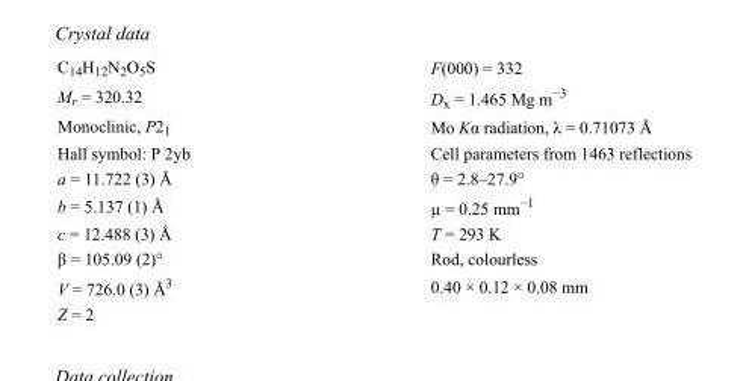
<table><tbody><tr><td>C<sub>14</sub>H<sub>12</sub>N<sub>2</sub>O<sub>5</sub>S</td><td>F(000) = 332</td></tr><tr><td>M<sub>r</sub> = 320.32</td><td>D<sub>x</sub> = 1.465 Mg m<sup>−3</sup></td></tr><tr><td>Monoclinic, P2<sub>1</sub></td><td>Mo Kα radiation, λ = 0.71073 Å</td></tr><tr><td>Hall symbol: P 2yb</td><td>Cell parameters from 1463 reflections</td></tr><tr><td>a = 11.722 (3) Å</td><td>θ = 2.8–27.9°</td></tr><tr><td>b = 5.137 (1) Å</td><td>µ = 0.25 mm<sup>−1</sup></td></tr><tr><td>c = 12.488 (3) Å</td><td>T = 293 K</td></tr><tr><td>β = 105.09 (2)°</td><td>Rod, colourless</td></tr><tr><td>V = 726.0 (3) Å<sup>3</sup></td><td>0.40 × 0.12 × 0.08 mm</td></tr><tr><td>Z = 2</td><td></td></tr></tbody></table>